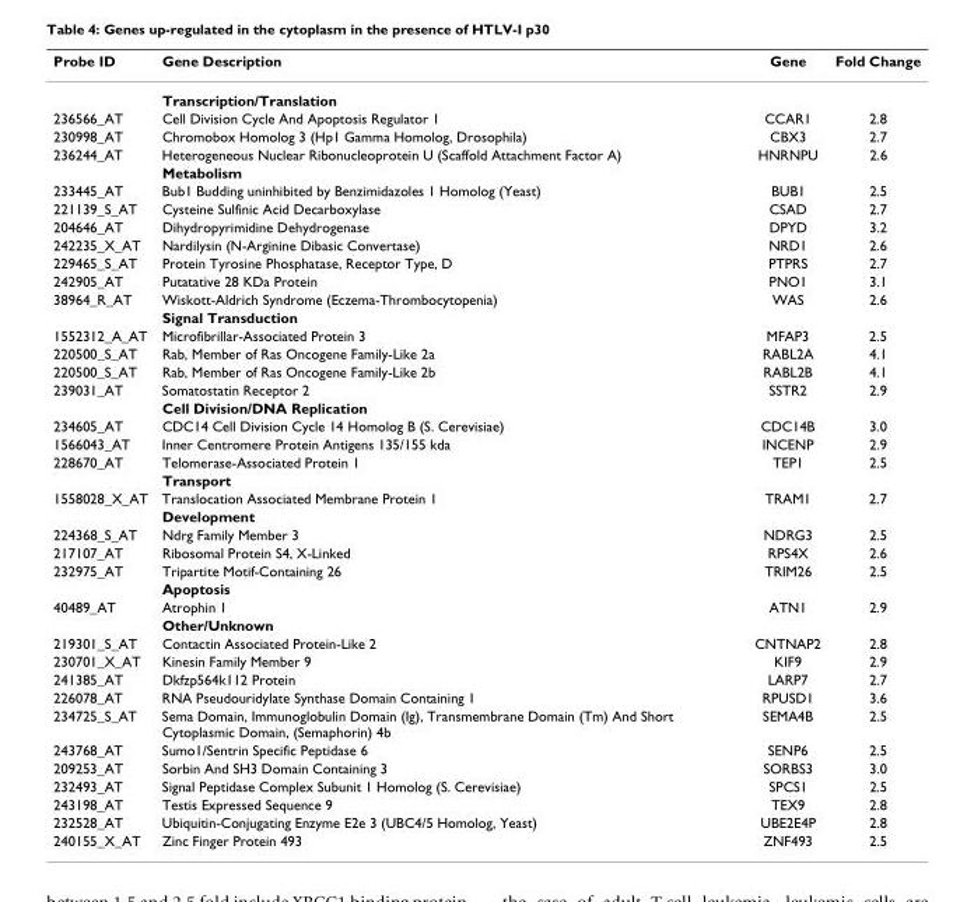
<table><thead><tr><td>Probe ID</td><td>Gene Description</td><td>Gene</td><td>Fold Change</td></tr></thead><tbody><tr><td></td><td>Transcription/Translation</td><td></td><td></td></tr><tr><td>236566_AT</td><td>Cell Division Cycle And Apoptosis Regulator 1</td><td>CCAR1</td><td>2.8</td></tr><tr><td>230998_AT</td><td>Chromobox Homolog 3 (Hp1 Gamma Homolog, Drosophila)</td><td>CBX3</td><td>2.7</td></tr><tr><td rowspan="2">236244_AT</td><td>Heterogeneous Nuclear Ribonucleoprotein U (Scaffold Attachment Factor A)</td><td>HNRNPU</td><td>2.6</td></tr><tr><td>Metabolism</td><td></td><td></td></tr><tr><td>233445_AT</td><td>Bub1 Budding uninhibited by Benzimidazoles 1 Homolog (Yeast)</td><td>BUB1</td><td>2.5</td></tr><tr><td>221139_S_AT</td><td>Cysteine Sulfinic Acid Decarboxylase</td><td>CSAD</td><td>2.7</td></tr><tr><td>204646_AT</td><td>Dihydropyrimidine Dehydrogenase</td><td>DPYD</td><td>3.2</td></tr><tr><td>242235_X_AT</td><td>Nardilysin (N-Arginine Dibasic Convertase)</td><td>NRD1</td><td>2.6</td></tr><tr><td>229465_S_AT</td><td>Protein Tyrosine Phosphatase, Receptor Type, D</td><td>PTPRS</td><td>2.7</td></tr><tr><td>242905_AT</td><td>Putatative 28 KDa Protein</td><td>PNO1</td><td>3.1</td></tr><tr><td rowspan="2">38964_R_AT</td><td>Wiskott-Aldrich Syndrome (Eczema-Thrombocytopenia)</td><td>WAS</td><td>2.6</td></tr><tr><td>Signal Transduction</td><td></td><td></td></tr><tr><td>1552312_A_AT</td><td>Microfibrillar-Associated Protein 3</td><td>MFAP3</td><td>2.5</td></tr><tr><td>220500_S_AT</td><td>Rab, Member of Ras Oncogene Family-Like 2a</td><td>RABL2A</td><td>4.1</td></tr><tr><td>220500_S_AT</td><td>Rab, Member of Ras Oncogene Family-Like 2b</td><td>RABL2B</td><td>4.1</td></tr><tr><td rowspan="2">239031_AT</td><td>Somatostatin Receptor 2</td><td>SSTR2</td><td>2.9</td></tr><tr><td>Cell Division/DNA Replication</td><td></td><td></td></tr><tr><td>234605_AT</td><td>CDC14 Cell Division Cycle 14 Homolog B (S. Cerevisiae)</td><td>CDC14B</td><td>3.0</td></tr><tr><td>1566043_AT</td><td>Inner Centromere Protein Antigens 135/155 kda</td><td>INCENP</td><td>2.9</td></tr><tr><td rowspan="2">228670_AT</td><td>Telomerase-Associated Protein 1</td><td>TEP1</td><td>2.5</td></tr><tr><td>Transport</td><td></td><td></td></tr><tr><td rowspan="2">1558028_X_AT</td><td>Translocation Associated Membrane Protein 1</td><td>TRAM1</td><td>2.7</td></tr><tr><td>Development</td><td></td><td></td></tr><tr><td>224368_S_AT</td><td>Ndrg Family Member 3</td><td>NDRG3</td><td>2.5</td></tr><tr><td>217107_AT</td><td>Ribosomal Protein S4, X-Linked</td><td>RPS4X</td><td>2.6</td></tr><tr><td rowspan="2">232975_AT</td><td>Tripartite Motif-Containing 26</td><td>TRIM26</td><td>2.5</td></tr><tr><td>Apoptosis</td><td></td><td></td></tr><tr><td rowspan="2">40489_AT</td><td>Atrophin 1</td><td>ATN1</td><td>2.9</td></tr><tr><td>Other/Unknown</td><td></td><td></td></tr><tr><td>219301_S_AT</td><td>Contactin Associated Protein-Like 2</td><td>CNTNAP2</td><td>2.8</td></tr><tr><td>230701_X_AT</td><td>Kinesin Family Member 9</td><td>KIF9</td><td>2.9</td></tr><tr><td>241385_AT</td><td>Dkfzp564k112 Protein</td><td>LARP7</td><td>2.7</td></tr><tr><td>226078_AT</td><td>RNA Pseudouridylate Synthase Domain Containing 1</td><td>RPUSD1</td><td>3.6</td></tr><tr><td>234725_S_AT</td><td>Sema Domain, Immunoglobulin Domain (Ig), Transmembrane Domain (Tm) And Short Cytoplasmic Domain, (Semaphorin) 4b</td><td>SEMA4B</td><td>2.5</td></tr><tr><td>243768_AT</td><td>Sumo1/Sentrin Specific Peptidase 6</td><td>SENP6</td><td>2.5</td></tr><tr><td>209253_AT</td><td>Sorbin And SH3 Domain Containing 3</td><td>SORBS3</td><td>3.0</td></tr><tr><td>232493_AT</td><td>Signal Peptidase Complex Subunit 1 Homolog (S. Cerevisiae)</td><td>SPCS1</td><td>2.5</td></tr><tr><td>243198_AT</td><td>Testis Expressed Sequence 9</td><td>TEX9</td><td>2.8</td></tr><tr><td>232528_AT</td><td>Ubiquitin-Conjugating Enzyme E2e 3 (UBC4/5 Homolog, Yeast)</td><td>UBE2E4P</td><td>2.8</td></tr><tr><td>240155_X_AT</td><td>Zinc Finger Protein 493</td><td>ZNF493</td><td>2.5</td></tr></tbody></table>